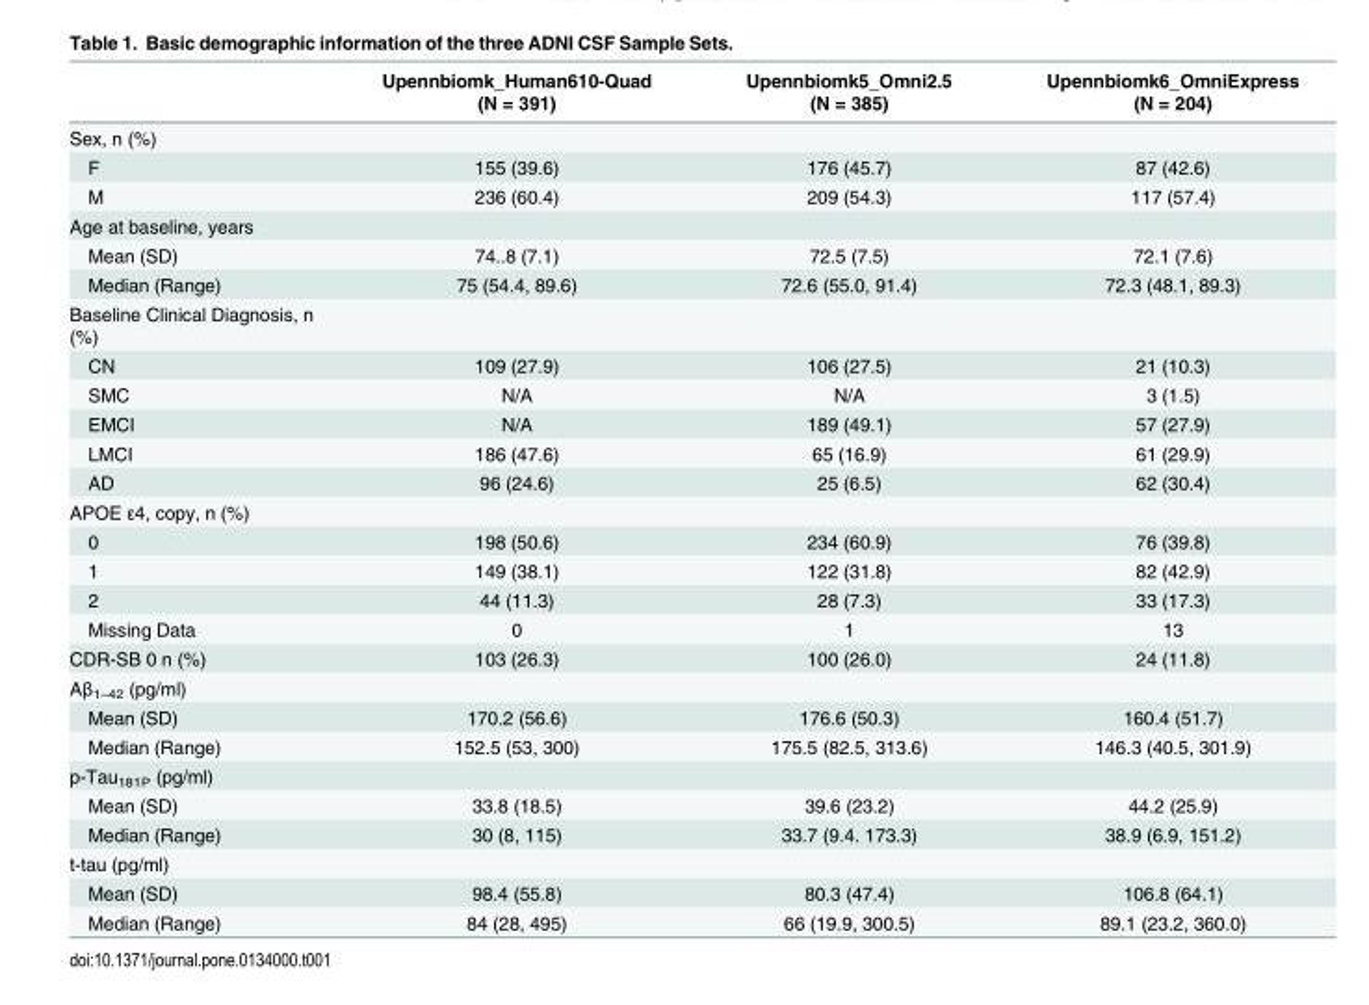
<table><thead><tr><td></td><td>Upennbiomk_Human610-Quad (N = 391)</td><td>Upennbiomk5_Omni2.5 (N = 385)</td><td>Upennbiomk6_OmniExpress (N = 204)</td></tr></thead><tbody><tr><td colspan="4">Sex, n (%)</td></tr><tr><td>F</td><td>155 (39.6)</td><td>176 (45.7)</td><td>87 (42.6)</td></tr><tr><td>M</td><td>236 (60.4)</td><td>209 (54.3)</td><td>117 (57.4)</td></tr><tr><td colspan="4">Age at baseline, years</td></tr><tr><td>Mean (SD)</td><td>74..8 (7.1)</td><td>72.5 (7.5)</td><td>72.1 (7.6)</td></tr><tr><td>Median (Range)</td><td>75 (54.4, 89.6)</td><td>72.6 (55.0, 91.4)</td><td>72.3 (48.1, 89.3)</td></tr><tr><td colspan="4">Baseline Clinical Diagnosis, n (%)</td></tr><tr><td>CN</td><td>109 (27.9)</td><td>106 (27.5)</td><td>21 (10.3)</td></tr><tr><td>SMC</td><td>N/A</td><td>N/A</td><td>3 (1.5)</td></tr><tr><td>EMCI</td><td>N/A</td><td>189 (49.1)</td><td>57 (27.9)</td></tr><tr><td>LMCI</td><td>186 (47.6)</td><td>65 (16.9)</td><td>61 (29.9)</td></tr><tr><td>AD</td><td>96 (24.6)</td><td>25 (6.5)</td><td>62 (30.4)</td></tr><tr><td colspan="4">APOE ε4, copy, n (%)</td></tr><tr><td>0</td><td>198 (50.6)</td><td>234 (60.9)</td><td>76 (39.8)</td></tr><tr><td>1</td><td>149 (38.1)</td><td>122 (31.8)</td><td>82 (42.9)</td></tr><tr><td>2</td><td>44 (11.3)</td><td>28 (7.3)</td><td>33 (17.3)</td></tr><tr><td>Missing Data</td><td>0</td><td>1</td><td>13</td></tr><tr><td>CDR-SB 0 n (%)</td><td>103 (26.3)</td><td>100 (26.0)</td><td>24 (11.8)</td></tr><tr><td colspan="4">Aβ<sub>1–42</sub> (pg/ml)</td></tr><tr><td>Mean (SD)</td><td>170.2 (56.6)</td><td>176.6 (50.3)</td><td>160.4 (51.7)</td></tr><tr><td>Median (Range)</td><td>152.5 (53, 300)</td><td>175.5 (82.5, 313.6)</td><td>146.3 (40.5, 301.9)</td></tr><tr><td colspan="4">p-Tau<sub>181P</sub> (pg/ml)</td></tr><tr><td>Mean (SD)</td><td>33.8 (18.5)</td><td>39.6 (23.2)</td><td>44.2 (25.9)</td></tr><tr><td>Median (Range)</td><td>30 (8, 115)</td><td>33.7 (9.4. 173.3)</td><td>38.9 (6.9, 151.2)</td></tr><tr><td colspan="4">t-tau (pg/ml)</td></tr><tr><td>Mean (SD)</td><td>98.4 (55.8)</td><td>80.3 (47.4)</td><td>106.8 (64.1)</td></tr><tr><td>Median (Range)</td><td>84 (28, 495)</td><td>66 (19.9, 300.5)</td><td>89.1 (23.2, 360.0)</td></tr></tbody></table>